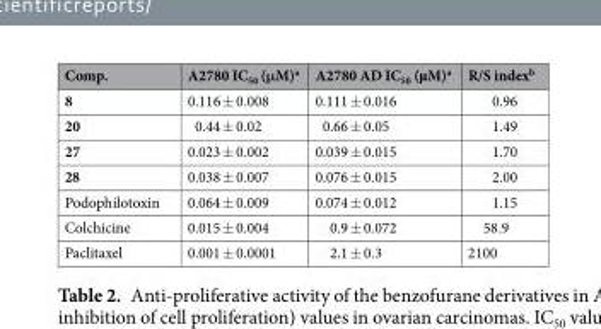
<table><thead><tr><td>Comp.</td><td>A2780 IC<sub>50</sub> (μM)<sup>a</sup></td><td>A2780 AD IC<sub>50</sub> (µM)<sup>a</sup></td><td>R/S index<sup>b</sup></td></tr></thead><tbody><tr><td>8</td><td>0.116 ± 0.008</td><td>0.111 ± 0.016</td><td>0.96</td></tr><tr><td>20</td><td>0.44 ± 0.02</td><td>0.66 ± 0.05</td><td>1.49</td></tr><tr><td>27</td><td>0.023 ± 0.002</td><td>0.039 ± 0.015</td><td>1.70</td></tr><tr><td>28</td><td>0.038 ± 0.007</td><td>0.076 ± 0.015</td><td>2.00</td></tr><tr><td>Podophilotoxin</td><td>0.064 ± 0.009</td><td>0.074 ± 0.012</td><td>1.15</td></tr><tr><td>Colchicine</td><td>0.015 ± 0.004</td><td>0.9 ± 0.072</td><td>58.9</td></tr><tr><td>Paclitaxel</td><td>0.001 ± 0.0001</td><td>2.1 ± 0.3</td><td>2100</td></tr></tbody></table>